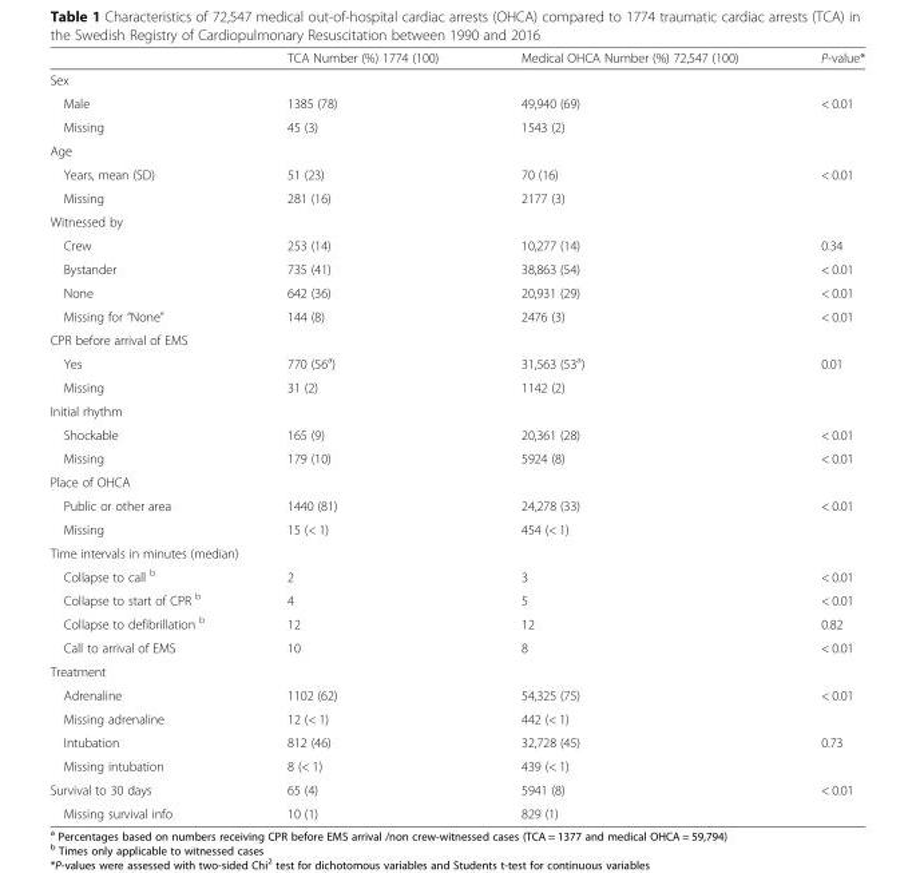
<table><thead><tr><td></td><td>TCA Number (%) 1774 (100)</td><td>Medical OHCA Number (%) 72,547 (100)</td><td>P-value*</td></tr></thead><tbody><tr><td colspan="4">Sex</td></tr><tr><td>Male</td><td>1385 (78)</td><td>49,940 (69)</td><td>&lt; 0.01</td></tr><tr><td>Missing</td><td>45 (3)</td><td>1543 (2)</td><td></td></tr><tr><td colspan="4">Age</td></tr><tr><td>Years, mean (SD)</td><td>51 (23)</td><td>70 (16)</td><td>&lt; 0.01</td></tr><tr><td>Missing</td><td>281 (16)</td><td>2177 (3)</td><td></td></tr><tr><td colspan="4">Witnessed by</td></tr><tr><td>Crew</td><td>253 (14)</td><td>10,277 (14)</td><td>0.34</td></tr><tr><td>Bystander</td><td>735 (41)</td><td>38,863 (54)</td><td>&lt; 0.01</td></tr><tr><td>None</td><td>642 (36)</td><td>20,931 (29)</td><td>&lt; 0.01</td></tr><tr><td>Missing for “None”</td><td>144 (8)</td><td>2476 (3)</td><td>&lt; 0.01</td></tr><tr><td colspan="4">CPR before arrival of EMS</td></tr><tr><td>Yes</td><td>770 (56<sup>a</sup>)</td><td>31,563 (53<sup>a</sup>)</td><td>0.01</td></tr><tr><td>Missing</td><td>31 (2)</td><td>1142 (2)</td><td></td></tr><tr><td colspan="4">Initial rhythm</td></tr><tr><td>Shockable</td><td>165 (9)</td><td>20,361 (28)</td><td>&lt; 0.01</td></tr><tr><td>Missing</td><td>179 (10)</td><td>5924 (8)</td><td>&lt; 0.01</td></tr><tr><td colspan="4">Place of OHCA</td></tr><tr><td>Public or other area</td><td>1440 (81)</td><td>24,278 (33)</td><td>&lt; 0.01</td></tr><tr><td>Missing</td><td>15 (&lt; 1)</td><td>454 (&lt; 1)</td><td></td></tr><tr><td colspan="4">Time intervals in minutes (median)</td></tr><tr><td>Collapse to call <sup>b</sup></td><td>2</td><td>3</td><td>&lt; 0.01</td></tr><tr><td>Collapse to start of CPR <sup>b</sup></td><td>4</td><td>5</td><td>&lt; 0.01</td></tr><tr><td>Collapse to defibrillation <sup>b</sup></td><td>12</td><td>12</td><td>0.82</td></tr><tr><td>Call to arrival of EMS</td><td>10</td><td>8</td><td>&lt; 0.01</td></tr><tr><td colspan="4">Treatment</td></tr><tr><td>Adrenaline</td><td>1102 (62)</td><td>54,325 (75)</td><td>&lt; 0.01</td></tr><tr><td>Missing adrenaline</td><td>12 (&lt; 1)</td><td>442 (&lt; 1)</td><td></td></tr><tr><td>Intubation</td><td>812 (46)</td><td>32,728 (45)</td><td>0.73</td></tr><tr><td>Missing intubation</td><td>8 (&lt; 1)</td><td>439 (&lt; 1)</td><td></td></tr><tr><td>Survival to 30 days</td><td>65 (4)</td><td>5941 (8)</td><td>&lt; 0.01</td></tr><tr><td>Missing survival info</td><td>10 (1)</td><td>829 (1)</td><td></td></tr></tbody></table>